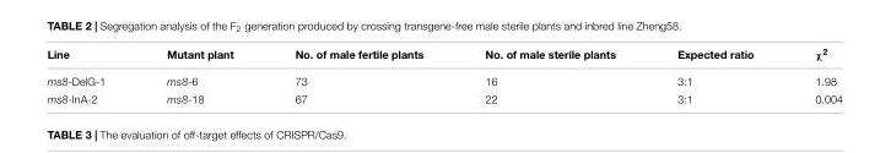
<table><thead><tr><td>Line</td><td>Mutant plant</td><td>No. of male fertile plants</td><td>No. of male sterile plants</td><td>Expected ratio</td><td>χ<sup>2</sup></td></tr></thead><tbody><tr><td>ms8-DelG-1</td><td>ms8-6</td><td>73</td><td>16</td><td>3:1</td><td>1.98</td></tr><tr><td>ms8-InA-2</td><td>ms8-18</td><td>67</td><td>22</td><td>3:1</td><td>0.004</td></tr></tbody></table>